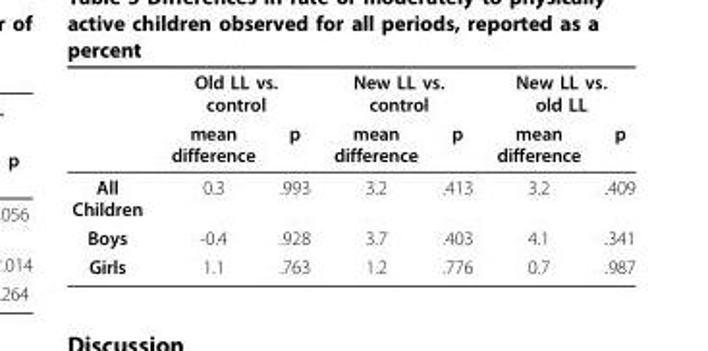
<table><thead><tr><td rowspan="2"></td><td colspan="2">Old LL vs. control</td><td colspan="2">New LL vs. control</td><td colspan="2">New LL vs. old LL</td></tr><tr><td>mean difference</td><td>p</td><td>mean difference</td><td>p</td><td>mean difference</td><td>p</td></tr></thead><tbody><tr><td>All Children</td><td>0.3</td><td>.993</td><td>3.2</td><td>.413</td><td>3.2</td><td>.409</td></tr><tr><td>Boys</td><td>-0.4</td><td>.928</td><td>3.7</td><td>.403</td><td>4.1</td><td>.341</td></tr><tr><td>Girls</td><td>1.1</td><td>.763</td><td>1.2</td><td>.776</td><td>0.7</td><td>.987</td></tr></tbody></table>